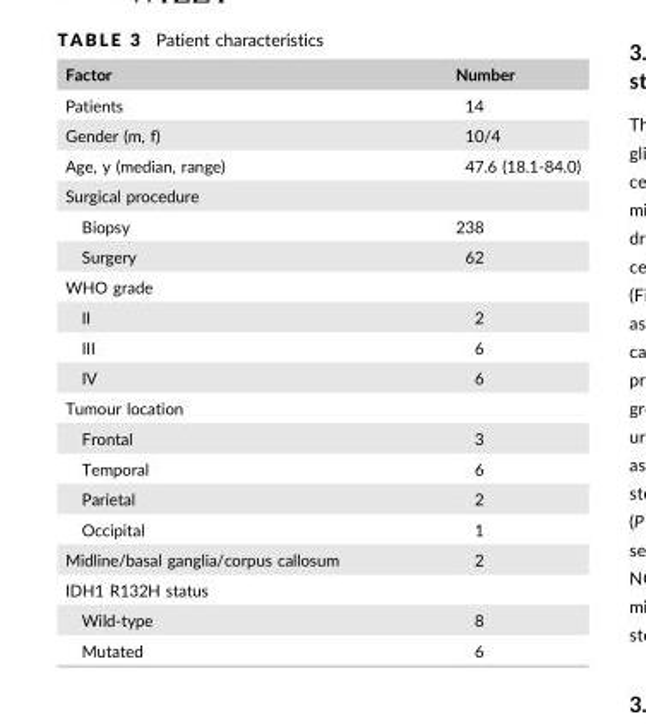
<table><thead><tr><td>Factor</td><td>Number</td></tr></thead><tbody><tr><td>Patients</td><td>14</td></tr><tr><td>Gender (m, f)</td><td>10/4</td></tr><tr><td>Age, y (median, range)</td><td>47.6 (18.1-84.0)</td></tr><tr><td colspan="2">Surgical procedure</td></tr><tr><td>Biopsy</td><td>238</td></tr><tr><td>Surgery</td><td>62</td></tr><tr><td colspan="2">WHO grade</td></tr><tr><td>II</td><td>2</td></tr><tr><td>III</td><td>6</td></tr><tr><td>IV</td><td>6</td></tr><tr><td colspan="2">Tumour location</td></tr><tr><td>Frontal</td><td>3</td></tr><tr><td>Temporal</td><td>6</td></tr><tr><td>Parietal</td><td>2</td></tr><tr><td>Occipital</td><td>1</td></tr><tr><td>Midline/basal ganglia/corpus callosum</td><td>2</td></tr><tr><td colspan="2">IDH1 R132H status</td></tr><tr><td>Wild-type</td><td>8</td></tr><tr><td>Mutated</td><td>6</td></tr></tbody></table>